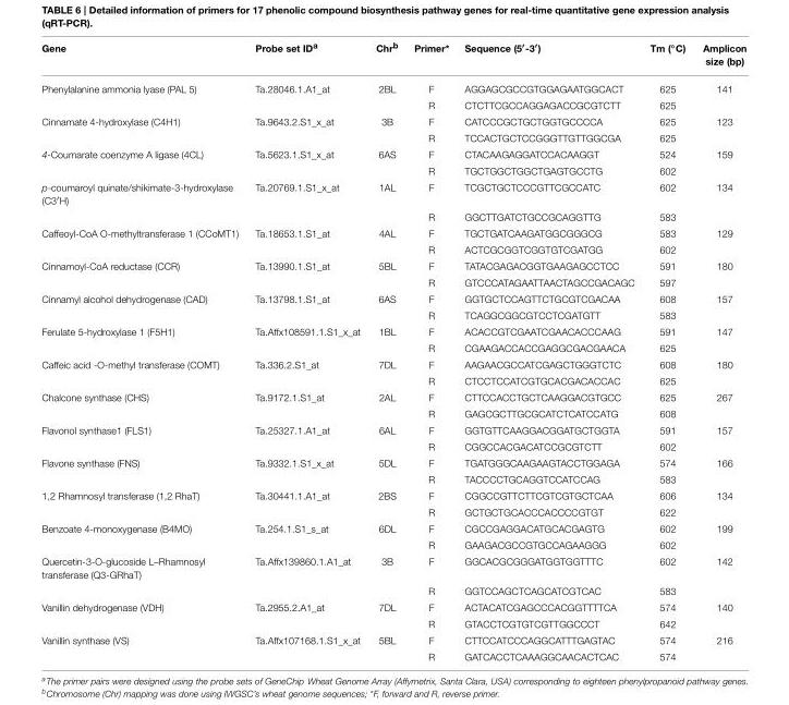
<table><thead><tr><td>Gene</td><td>Probe set ID<sup>a</sup></td><td>Chr<sup>b</sup></td><td>Primer*</td><td>Sequence (5′-3′)</td><td>Tm (◦C)</td><td>Amplicon size (bp)</td></tr></thead><tbody><tr><td rowspan="2">Phenylalanine ammonia lyase (PAL 5)</td><td>Ta.28046.1.A1_at</td><td>2BL</td><td>F</td><td>AGGAGCGCCGTGGAGAATGGCACT</td><td>625</td><td>141</td></tr><tr><td></td><td></td><td>R</td><td>CTCTTCGCCAGGAGACCGCGTCTT</td><td>625</td><td></td></tr><tr><td rowspan="2">Cinnamate 4-hydroxylase (C4H1)</td><td>Ta.9643.2.S1_x_at</td><td>3B</td><td>F</td><td>CATCCCGCTGCTGGTGCCCCA</td><td>625</td><td>123</td></tr><tr><td></td><td></td><td>R</td><td>TCCACTGCTCCGGGTTGTTGGCGA</td><td>625</td><td></td></tr><tr><td rowspan="2">4-Coumarate coenzyme A ligase (4CL)</td><td>Ta.5623.1.S1_x_at</td><td>6AS</td><td>F</td><td>CTACAAGAGGATCCACAAGGT</td><td>524</td><td>159</td></tr><tr><td></td><td></td><td>R</td><td>TGCTGGCTGGCTGAGTGCCTG</td><td>602</td><td></td></tr><tr><td rowspan="2">p-coumaroyl quinate/shikimate-3-hydroxylase (C3′H)</td><td>Ta.20769.1.S1_x_at</td><td>1AL</td><td>F</td><td>TCGCTGCTCCCGTTCGCCATC</td><td>602</td><td>134</td></tr><tr><td></td><td></td><td>R</td><td>GGCTTGATCTGCCGCAGGTTG</td><td>583</td><td></td></tr><tr><td rowspan="2">Caffeoyl-CoA O-methyltransferase 1 (CCoMT1)</td><td>Ta.18653.1.S1_at</td><td>4AL</td><td>F</td><td>TGCTGATCAAGATGGCGGGCG</td><td>583</td><td>129</td></tr><tr><td></td><td></td><td>R</td><td>ACTCGCGGTCGGTGTCGATGG</td><td>602</td><td></td></tr><tr><td rowspan="2">Cinnamoyl-CoA reductase (CCR)</td><td>Ta.13990.1.S1_at</td><td>5BL</td><td>F</td><td>TATACGAGACGGTGAAGAGCCTCC</td><td>591</td><td>180</td></tr><tr><td></td><td></td><td>R</td><td>GTCCCATAGAATTAACTAGCCGACAGC</td><td>597</td><td></td></tr><tr><td rowspan="2">Cinnamyl alcohol dehydrogenase (CAD)</td><td>Ta.13798.1.S1_at</td><td>6AS</td><td>F</td><td>GGTGCTCCAGTTCTGCGTCGACAA</td><td>608</td><td>157</td></tr><tr><td></td><td></td><td>R</td><td>TCAGGCGGCGTCCTCGATGTT</td><td>583</td><td></td></tr><tr><td rowspan="2">Ferulate 5-hydroxylase 1 (F5H1)</td><td>Ta.Affx108591.1.S1_x_at</td><td>1BL</td><td>F</td><td>ACACCGTCGAATCGAACACCCAAG</td><td>591</td><td>147</td></tr><tr><td></td><td></td><td>R</td><td>CGAAGACCACCGAGGCGACGAACA</td><td>625</td><td></td></tr><tr><td rowspan="2">Caffeic acid -O-methyl transferase (COMT)</td><td>Ta.336.2.S1_at</td><td>7DL</td><td>F</td><td>AAGAACGCCATCGAGCTGGGTCTC</td><td>608</td><td>180</td></tr><tr><td></td><td></td><td>R</td><td>CTCCTCCATCGTGCACGACACCAC</td><td>625</td><td></td></tr><tr><td rowspan="2">Chalcone synthase (CHS)</td><td>Ta.9172.1.S1_at</td><td>2AL</td><td>F</td><td>CTTCCACCTGCTCAAGGACGTGCC</td><td>625</td><td>267</td></tr><tr><td></td><td></td><td>R</td><td>GAGCGCTTGCGCATCTCATCCATG</td><td>608</td><td></td></tr><tr><td rowspan="2">Flavonol synthase1 (FLS1)</td><td>Ta.25327.1.A1_at</td><td>6AL</td><td>F</td><td>GGTGTTCAAGGACGGATGCTGGTA</td><td>591</td><td>157</td></tr><tr><td></td><td></td><td>R</td><td>CGGCCACGACATCCGCGTCTT</td><td>602</td><td></td></tr><tr><td rowspan="2">Flavone synthase (FNS)</td><td>Ta.9332.1.S1_x_at</td><td>5DL</td><td>F</td><td>TGATGGGCAAGAAGTACCTGGAGA</td><td>574</td><td>166</td></tr><tr><td></td><td></td><td>R</td><td>TACCCCTGCAGGTCCATCCAG</td><td>583</td><td></td></tr><tr><td rowspan="2">1,2 Rhamnosyl transferase (1,2 RhaT)</td><td>Ta.30441.1.A1_at</td><td>2BS</td><td>F</td><td>CGGCCGTTCTTCGTCGTGCTCAA</td><td>606</td><td>134</td></tr><tr><td></td><td></td><td>R</td><td>GCTGCTGCACCCACCCCGTGT</td><td>622</td><td></td></tr><tr><td rowspan="2">Benzoate 4-monoxygenase (B4MO)</td><td>Ta.254.1.S1_s_at</td><td>6DL</td><td>F</td><td>CGCCGAGGACATGCACGAGTG</td><td>602</td><td>199</td></tr><tr><td></td><td></td><td>R</td><td>GAAGACGCCGTGCCAGAAGGG</td><td>602</td><td></td></tr><tr><td rowspan="2">Quercetin-3-O-glucoside L–Rhamnosyl transferase (Q3-GRhaT)</td><td>Ta.Affx139860.1.A1_at</td><td>3B</td><td>F</td><td>GGCACGCGGGATGGTGGTTTC</td><td>602</td><td>142</td></tr><tr><td></td><td></td><td>R</td><td>GGTCCAGCTCAGCATCGTCAC</td><td>583</td><td></td></tr><tr><td rowspan="2">Vanillin dehydrogenase (VDH)</td><td>Ta.2955.2.A1_at</td><td>7DL</td><td>F</td><td>ACTACATCGAGCCCACGGTTTTCA</td><td>574</td><td>140</td></tr><tr><td></td><td></td><td>R</td><td>GTACCTCGTGTCGTTGGCCCT</td><td>642</td><td></td></tr><tr><td rowspan="2">Vanillin synthase (VS)</td><td>Ta.Affx107168.1.S1_x_at</td><td>5BL</td><td>F</td><td>CTTCCATCCCAGGCATTTGAGTAC</td><td>574</td><td>216</td></tr><tr><td></td><td></td><td>R</td><td>GATCACCTCAAAGGCAACACTCAC</td><td>574</td><td></td></tr></tbody></table>